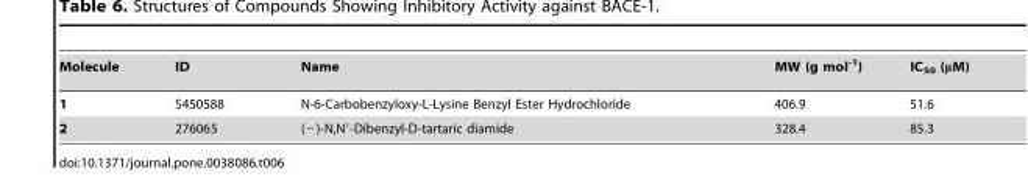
<table><tbody><tr><td>Molecule</td><td>ID</td><td>Name</td><td>MW (g mol<sup>-1</sup>)</td><td>IC<sub>50</sub> (μM)</td></tr><tr><td>1</td><td>S450588</td><td>N-6-Carbobenzyloxy-L-Lysine Benzyl Ester Hydrochloride</td><td>406.9</td><td>51.6</td></tr><tr><td>2</td><td>276065</td><td>(−)-N,N′-Dibenzyl-D-tartaric diamide</td><td>328.4</td><td>85.3</td></tr></tbody></table>